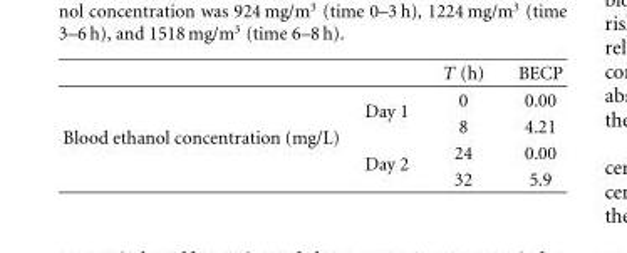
<table><thead><tr><td></td><td></td><td>T (h)</td><td>BECP</td></tr></thead><tbody><tr><td rowspan="4">Blood ethanol concentration (mg/L)</td><td rowspan="2">Day 1</td><td>0</td><td>0.00</td></tr><tr><td>8</td><td>4.21</td></tr><tr><td rowspan="2">Day 2</td><td>24</td><td>0.00</td></tr><tr><td>32</td><td>5.9</td></tr></tbody></table>